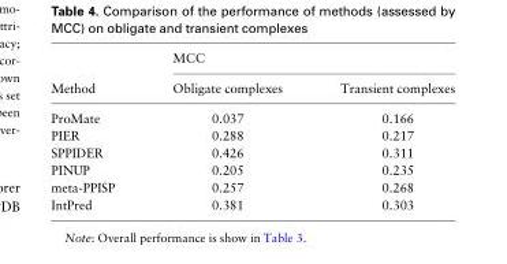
<table><thead><tr><td rowspan="2">Method</td><td colspan="2">MCC</td></tr><tr><td>Obligate complexes</td><td>Transient complexes</td></tr></thead><tbody><tr><td>ProMate</td><td>0.037</td><td>0.166</td></tr><tr><td>PIER</td><td>0.288</td><td>0.217</td></tr><tr><td>SPPIDER</td><td>0.426</td><td>0.311</td></tr><tr><td>PINUP</td><td>0.205</td><td>0.235</td></tr><tr><td>meta-PPISP</td><td>0.257</td><td>0.268</td></tr><tr><td>IntPred</td><td>0.381</td><td>0.303</td></tr></tbody></table>